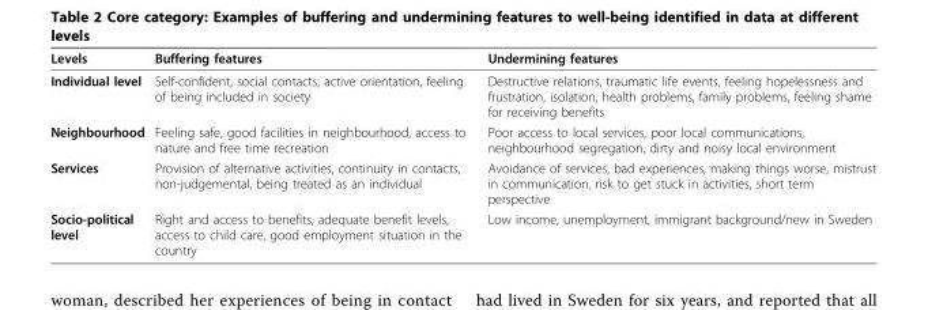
<table><thead><tr><td>Levels</td><td>Buffering features</td><td>Undermining features</td></tr></thead><tbody><tr><td>Individual level</td><td>Self-confident, social contacts, active orientation, feeling of being included in society</td><td>Destructive relations, traumatic life events, feeling hopelessness and frustration, isolation, health problems, family problems, feeling shame for receiving benefits</td></tr><tr><td>Neighbourhood</td><td>Feeling safe, good facilities in neighbourhood, access to nature and free time recreation</td><td>Poor access to local services, poor local communications, neighbourhood segregation, dirty and noisy local environment</td></tr><tr><td>Services</td><td>Provision of alternative activities, continuity in contacts, non-judgemental, being treated as an individual</td><td>Avoidance of services, bad experiences, making things worse, mistrust in communication, risk to get stuck in activities, short term perspective</td></tr><tr><td>Socio-political level</td><td>Right and access to benefits, adequate benefit levels, access to child care, good employment situation in the country</td><td>Low income, unemployment, immigrant background/new in Sweden</td></tr></tbody></table>